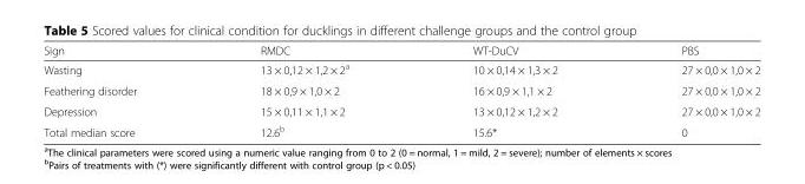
<table><thead><tr><td>Sign</td><td>RMDC</td><td>WT-DuCV</td><td>PBS</td></tr></thead><tbody><tr><td>Wasting</td><td>13 × 0,12 × 1,2 × 2<sup>a</sup></td><td>10 × 0,14 × 1,3 × 2</td><td>27 × 0,0 × 1,0 × 2</td></tr><tr><td>Feathering disorder</td><td>18 × 0,9 × 1,0 × 2</td><td>16 × 0,9 × 1,1 × 2</td><td>27 × 0,0 × 1,0 × 2</td></tr><tr><td>Depression</td><td>15 × 0,11 × 1,1 × 2</td><td>13 × 0,12 × 1,2 × 2</td><td>27 × 0,0 × 1,0 × 2</td></tr><tr><td>Total median score</td><td>12.6<sup>b</sup></td><td>15.6*</td><td>0</td></tr></tbody></table>